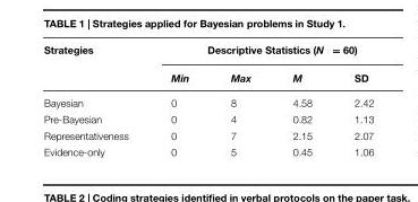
<table><thead><tr><td rowspan="2">Strategies</td><td colspan="4">Descriptive Statistics (N = 60)</td></tr><tr><td>Min</td><td>Max</td><td>M</td><td>SD</td></tr></thead><tbody><tr><td>Bayesian</td><td>0</td><td>8</td><td>4.58</td><td>2.42</td></tr><tr><td>Pre-Bayesian</td><td>0</td><td>4</td><td>0.82</td><td>1.13</td></tr><tr><td>Representativeness</td><td>0</td><td>7</td><td>2.15</td><td>2.07</td></tr><tr><td>Evidence-only</td><td>0</td><td>5</td><td>0.45</td><td>1.06</td></tr></tbody></table>